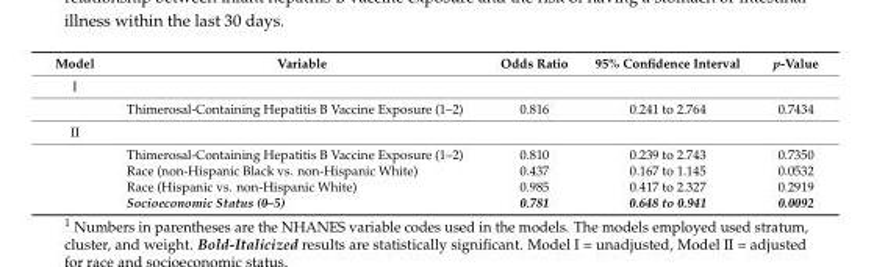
<table><thead><tr><td>Model</td><td>Variable</td><td>Odds Ratio</td><td>95% Confidence Interval</td><td>p-Value</td></tr></thead><tbody><tr><td colspan="5">I</td></tr><tr><td></td><td>Thimerosal-Containing Hepatitis B Vaccine Exposure (1–2)</td><td>0.816</td><td>0.241 to 2.764</td><td>0.7434</td></tr><tr><td colspan="5">II</td></tr><tr><td></td><td>Thimerosal-Containing Hepatitis B Vaccine Exposure (1–2)</td><td>0.810</td><td>0.239 to 2.743</td><td>0.7350</td></tr><tr><td></td><td>Race (non-Hispanic Black vs. non-Hispanic White)</td><td>0.437</td><td>0.167 to 1.145</td><td>0.0532</td></tr><tr><td></td><td>Race (Hispanic vs. non-Hispanic White)</td><td>0.985</td><td>0.417 to 2.327</td><td>0.2919</td></tr><tr><td></td><td>Socioeconomic Status (0–5)</td><td>0.781</td><td>0.648 to 0.941</td><td>0.0092</td></tr></tbody></table>